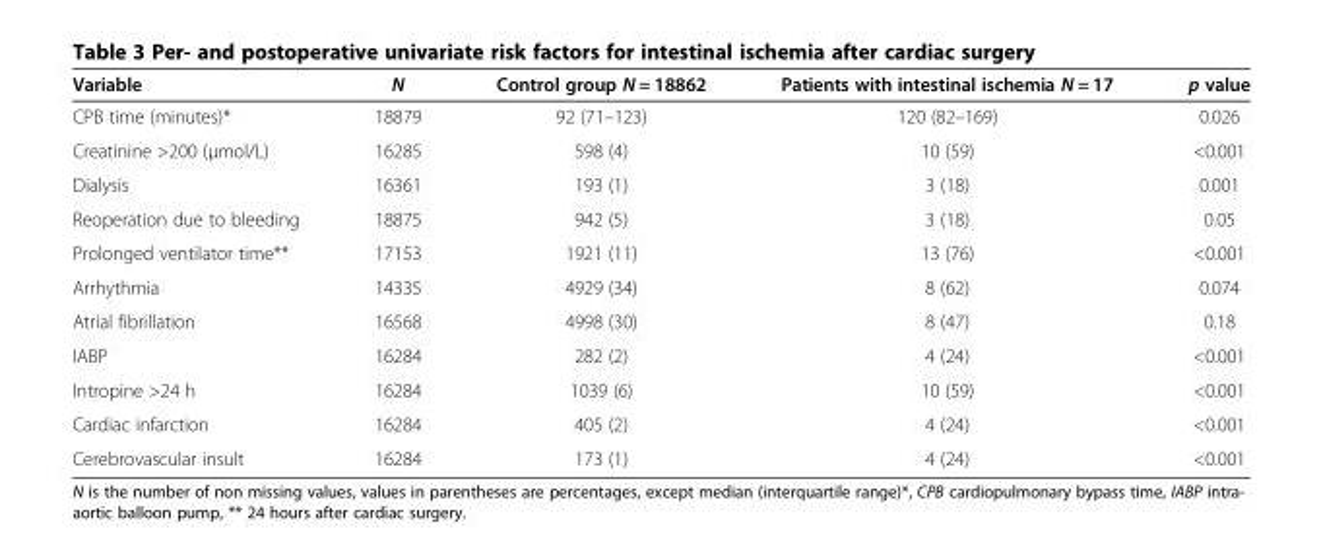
<table><thead><tr><td>Variable</td><td>N</td><td>Control group N = 18862</td><td>Patients with intestinal ischemia N = 17</td><td>p value</td></tr></thead><tbody><tr><td>CPB time (minutes)*</td><td>18879</td><td>92 (71–123)</td><td>120 (82–169)</td><td>0.026</td></tr><tr><td>Creatinine &gt;200 (μmol/L)</td><td>16285</td><td>598 (4)</td><td>10 (59)</td><td>&lt;0.001</td></tr><tr><td>Dialysis</td><td>16361</td><td>193 (1)</td><td>3 (18)</td><td>0.001</td></tr><tr><td>Reoperation due to bleeding</td><td>18875</td><td>942 (5)</td><td>3 (18)</td><td>0.05</td></tr><tr><td>Prolonged ventilator time**</td><td>17153</td><td>1921 (11)</td><td>13 (76)</td><td>&lt;0.001</td></tr><tr><td>Arrhythmia</td><td>14335</td><td>4929 (34)</td><td>8 (62)</td><td>0.074</td></tr><tr><td>Atrial fibrillation</td><td>16568</td><td>4998 (30)</td><td>8 (47)</td><td>0.18</td></tr><tr><td>IABP</td><td>16284</td><td>282 (2)</td><td>4 (24)</td><td>&lt;0.001</td></tr><tr><td>Intropine &gt;24 h</td><td>16284</td><td>1039 (6)</td><td>10 (59)</td><td>&lt;0.001</td></tr><tr><td>Cardiac infarction</td><td>16284</td><td>405 (2)</td><td>4 (24)</td><td>&lt;0.001</td></tr><tr><td>Cerebrovascular insult</td><td>16284</td><td>173 (1)</td><td>4 (24)</td><td>&lt;0.001</td></tr></tbody></table>